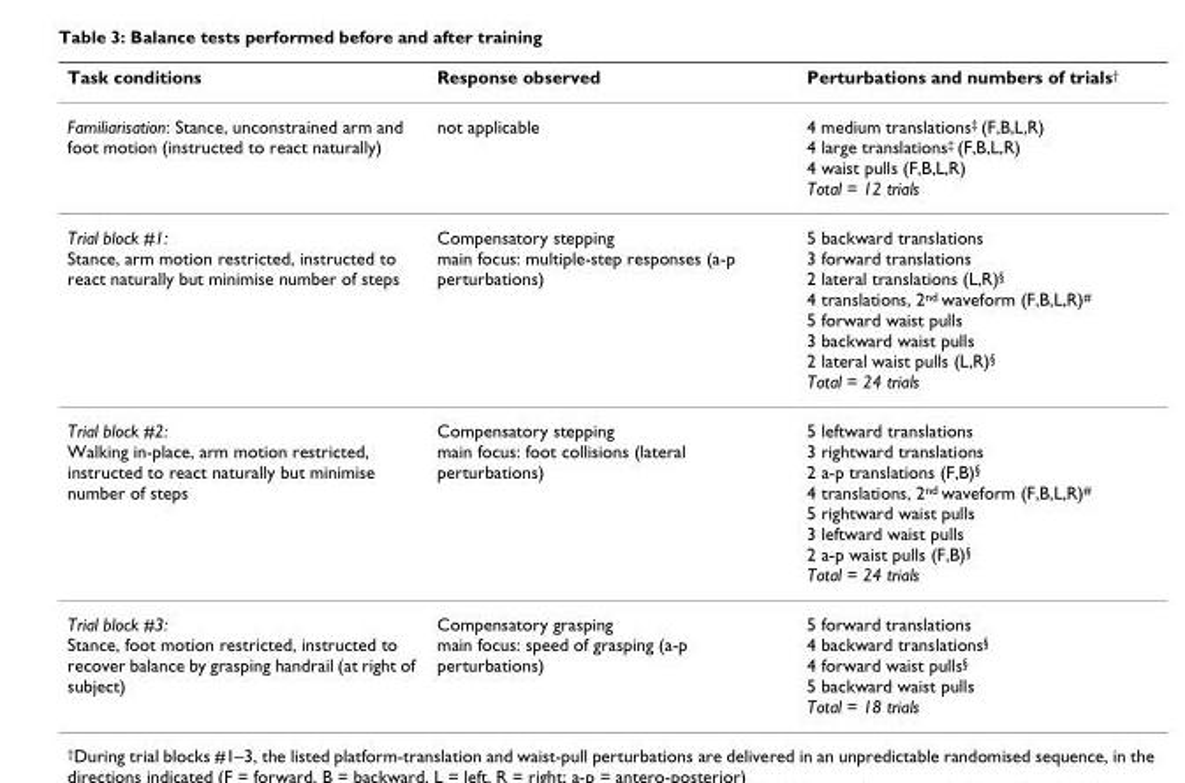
<table><thead><tr><td>Task conditions</td><td>Response observed</td><td>Perturbations and numbers of trials<sup>†</sup></td></tr></thead><tbody><tr><td>Familiarisation: Stance, unconstrained arm and foot motion (instructed to react naturally)</td><td>not applicable</td><td>4 medium translations<sup>‡</sup> (F,B,L,R) 4 large translations<sup>‡</sup> (F,B,L,R) 4 waist pulls (F,B,L,R) Total = 12 trials</td></tr><tr><td>Trial block #1: Stance, arm motion restricted, instructed to react naturally but minimise number of steps</td><td>Compensatory stepping main focus: multiple-step responses (a-p perturbations)</td><td>5 backward translations 3 forward translations 2 lateral translations (L,R)<sup>§</sup> 4 translations, 2<sup>nd</sup> waveform (F,B,L,R)<sup>#</sup> 5 forward waist pulls 3 backward waist pulls 2 lateral waist pulls (L,R)<sup>§</sup> Total = 24 trials</td></tr><tr><td>Trial block #2: Walking in-place, arm motion restricted, instructed to react naturally but minimise number of steps</td><td>Compensatory stepping main focus: foot collisions (lateral perturbations)</td><td>5 leftward translations 3 rightward translations 2 a-p translations (F,B)<sup>§</sup> 4 translations, 2<sup>nd</sup> waveform (F,B,L,R)<sup>#</sup> 5 rightward waist pulls 3 leftward waist pulls 2 a-p waist pulls (F,B)<sup>§</sup> Total = 24 trials</td></tr><tr><td>Trial block #3: Stance, foot motion restricted, instructed to recover balance by grasping handrail (at right of subject)</td><td>Compensatory grasping main focus: speed of grasping (a-p perturbations)</td><td>5 forward translations 4 backward translations<sup>§</sup> 4 forward waist pulls<sup>§</sup> 5 backward waist pulls Total = 18 trials</td></tr></tbody></table>